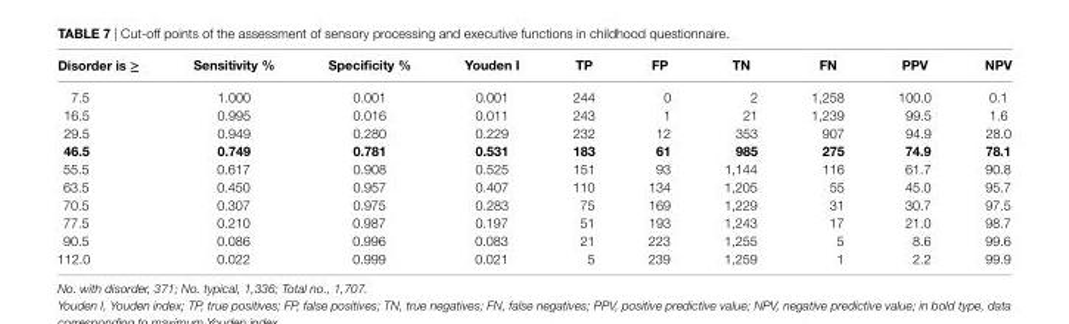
<table><thead><tr><td>disorder is ≥</td><td>sensitivity %</td><td>specificity %</td><td>Youden I</td><td>tP</td><td>FP</td><td>tN</td><td>FN</td><td>PPV</td><td>NPV</td></tr></thead><tbody><tr><td>7.5</td><td>1.000</td><td>0.001</td><td>0.001</td><td>244</td><td>0</td><td>2</td><td>1,258</td><td>100.0</td><td>0.1</td></tr><tr><td>16.5</td><td>0.995</td><td>0.016</td><td>0.011</td><td>243</td><td>1</td><td>21</td><td>1,239</td><td>99.5</td><td>1.6</td></tr><tr><td>29.5</td><td>0.949</td><td>0.280</td><td>0.229</td><td>232</td><td>12</td><td>353</td><td>907</td><td>94.9</td><td>28.0</td></tr><tr><td>46.5</td><td>0.749</td><td>0.781</td><td>0.531</td><td>183</td><td>61</td><td>985</td><td>275</td><td>74.9</td><td>78.1</td></tr><tr><td>55.5</td><td>0.617</td><td>0.908</td><td>0.525</td><td>151</td><td>93</td><td>1,144</td><td>116</td><td>61.7</td><td>90.8</td></tr><tr><td>63.5</td><td>0.450</td><td>0.957</td><td>0.407</td><td>110</td><td>134</td><td>1,205</td><td>55</td><td>45.0</td><td>95.7</td></tr><tr><td>70.5</td><td>0.307</td><td>0.975</td><td>0.283</td><td>75</td><td>169</td><td>1,229</td><td>31</td><td>30.7</td><td>97.5</td></tr><tr><td>77.5</td><td>0.210</td><td>0.987</td><td>0.197</td><td>51</td><td>193</td><td>1,243</td><td>17</td><td>21.0</td><td>98.7</td></tr><tr><td>90.5</td><td>0.086</td><td>0.996</td><td>0.083</td><td>21</td><td>223</td><td>1,255</td><td>5</td><td>8.6</td><td>99.6</td></tr><tr><td>112.0</td><td>0.022</td><td>0.999</td><td>0.021</td><td>5</td><td>239</td><td>1,259</td><td>1</td><td>2.2</td><td>99.9</td></tr></tbody></table>